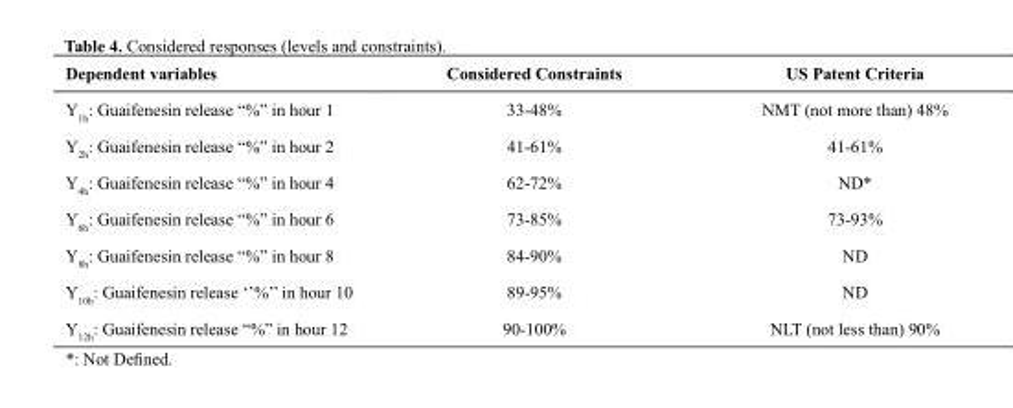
<table><thead><tr><td>Dependent variables</td><td>Considered Constraints</td><td>US Patent Criteria</td></tr></thead><tbody><tr><td>Y<sub>1h</sub>: Guaifenesin release “%” in hour 1</td><td>33-48%</td><td>NMT (not more than) 48%</td></tr><tr><td>Y<sub>2h</sub>: Guaifenesin release “%” in hour 2</td><td>41-61%</td><td>41-61%</td></tr><tr><td>Y<sub>4h</sub>: Guaifenesin release “%” in hour 4</td><td>62-72%</td><td>ND*</td></tr><tr><td>Y<sub>6h</sub>: Guaifenesin release “%” in hour 6</td><td>73-85%</td><td>73-93%</td></tr><tr><td>Y<sub>8h</sub>: Guaifenesin release “%” in hour 8</td><td>84-90%</td><td>ND</td></tr><tr><td>Y<sub>10h</sub>: Guaifenesin release ‘’%’’ in hour 10</td><td>89-95%</td><td>ND</td></tr><tr><td>Y<sub>12h</sub>: Guaifenesin release “%” in hour 12</td><td>90-100%</td><td>NLT (not less than) 90%</td></tr></tbody></table>